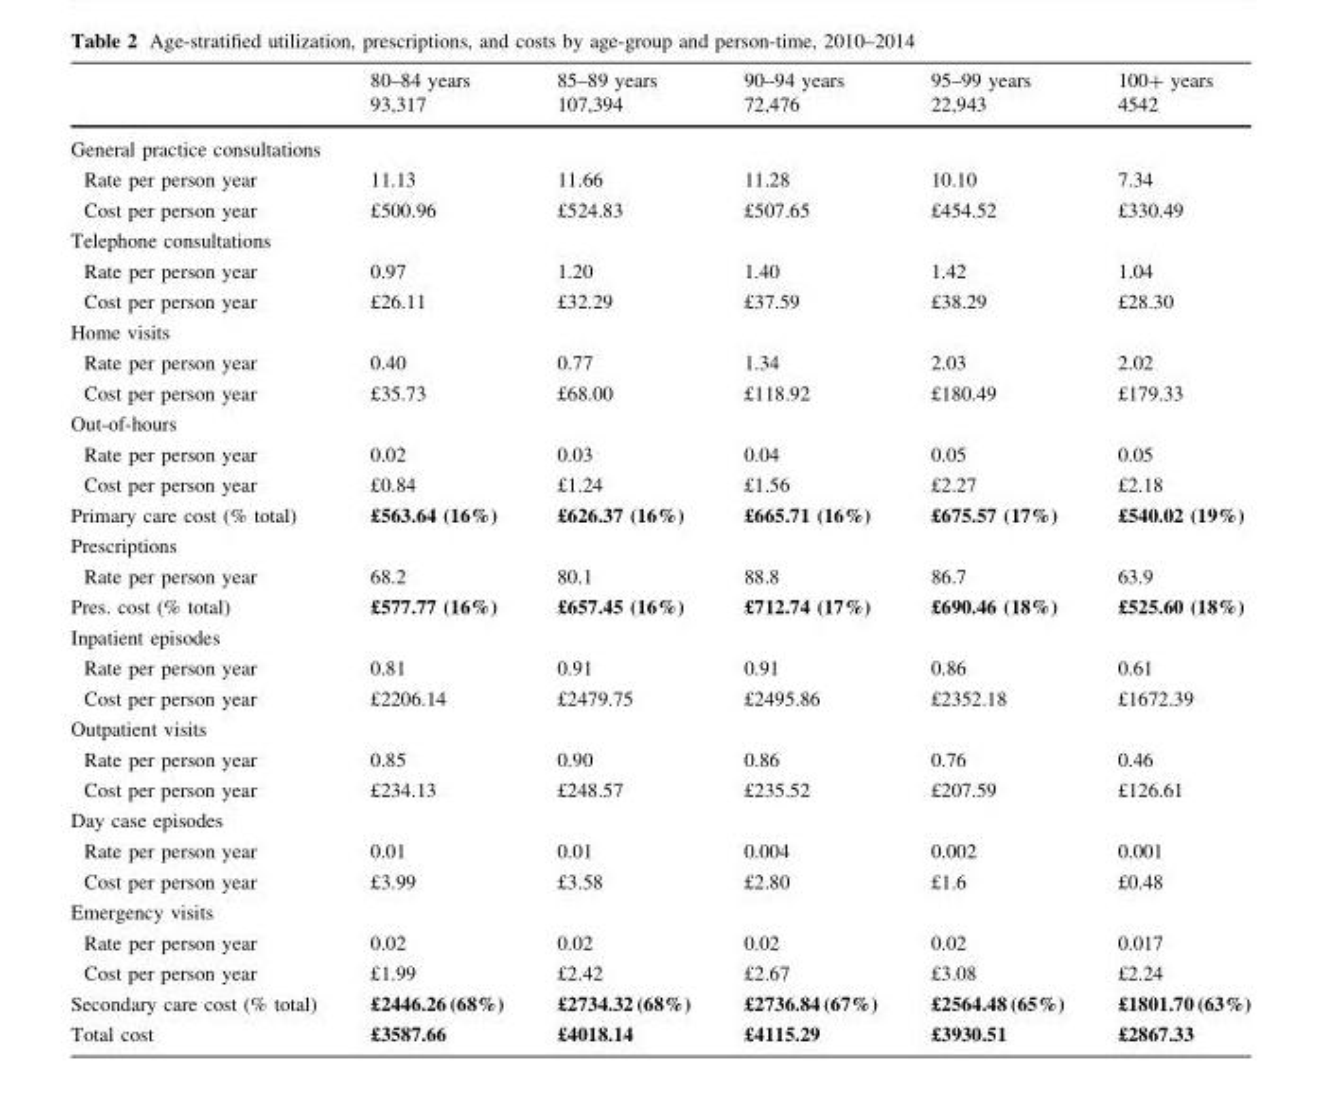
<table><thead><tr><td rowspan="2"></td><td rowspan="2">80–84 years 93,317</td><td rowspan="2">85–89 years 107,394</td><td rowspan="2">90–94 years 72,476</td><td rowspan="2">95–99 years 22,943</td><td rowspan="2">100+ years 4542</td></tr><tr></tr></thead><tbody><tr><td colspan="6">General practice consultations</td></tr><tr><td>Rate per person year</td><td>11.13</td><td>11.66</td><td>11.28</td><td>10.10</td><td>7.34</td></tr><tr><td>Cost per person year</td><td>£500.96</td><td>£524.83</td><td>£507.65</td><td>£454.52</td><td>£330.49</td></tr><tr><td colspan="6">Telephone consultations</td></tr><tr><td>Rate per person year</td><td>0.97</td><td>1.20</td><td>1.40</td><td>1.42</td><td>1.04</td></tr><tr><td>Cost per person year</td><td>£26.11</td><td>£32.29</td><td>£37.59</td><td>£38.29</td><td>£28.30</td></tr><tr><td colspan="6">Home visits</td></tr><tr><td>Rate per person year</td><td>0.40</td><td>0.77</td><td>1.34</td><td>2.03</td><td>2.02</td></tr><tr><td>Cost per person year</td><td>£35.73</td><td>£68.00</td><td>£118.92</td><td>£180.49</td><td>£179.33</td></tr><tr><td colspan="6">Out-of-hours</td></tr><tr><td>Rate per person year</td><td>0.02</td><td>0.03</td><td>0.04</td><td>0.05</td><td>0.05</td></tr><tr><td>Cost per person year</td><td>£0.84</td><td>£1.24</td><td>£1.56</td><td>£2.27</td><td>£2.18</td></tr><tr><td>Primary care cost (% total)</td><td>£563.64 (16%)</td><td>£626.37 (16%)</td><td>£665.71 (16%)</td><td>£675.57 (17%)</td><td>£540.02 (19%)</td></tr><tr><td colspan="6">Prescriptions</td></tr><tr><td>Rate per person year</td><td>68.2</td><td>80.1</td><td>88.8</td><td>86.7</td><td>63.9</td></tr><tr><td>Pres. cost (% total)</td><td>£577.77 (16%)</td><td>£657.45 (16%)</td><td>£712.74 (17%)</td><td>£690.46 (18%)</td><td>£525.60 (18%)</td></tr><tr><td colspan="6">Inpatient episodes</td></tr><tr><td>Rate per person year</td><td>0.81</td><td>0.91</td><td>0.91</td><td>0.86</td><td>0.61</td></tr><tr><td>Cost per person year</td><td>£2206.14</td><td>£2479.75</td><td>£2495.86</td><td>£2352.18</td><td>£1672.39</td></tr><tr><td colspan="6">Outpatient visits</td></tr><tr><td>Rate per person year</td><td>0.85</td><td>0.90</td><td>0.86</td><td>0.76</td><td>0.46</td></tr><tr><td>Cost per person year</td><td>£234.13</td><td>£248.57</td><td>£235.52</td><td>£207.59</td><td>£126.61</td></tr><tr><td colspan="6">Day case episodes</td></tr><tr><td>Rate per person year</td><td>0.01</td><td>0.01</td><td>0.004</td><td>0.002</td><td>0.001</td></tr><tr><td>Cost per person year</td><td>£3.99</td><td>£3.58</td><td>£2.80</td><td>£1.6</td><td>£0.48</td></tr><tr><td colspan="6">Emergency visits</td></tr><tr><td>Rate per person year</td><td>0.02</td><td>0.02</td><td>0.02</td><td>0.02</td><td>0.017</td></tr><tr><td>Cost per person year</td><td>£1.99</td><td>£2.42</td><td>£2.67</td><td>£3.08</td><td>£2.24</td></tr><tr><td>Secondary care cost (% total)</td><td>£2446.26 (68%)</td><td>£2734.32 (68%)</td><td>£2736.84 (67%)</td><td>£2564.48 (65%)</td><td>£1801.70 (63%)</td></tr><tr><td>Total cost</td><td>£3587.66</td><td>£4018.14</td><td>£4115.29</td><td>£3930.51</td><td>£2867.33</td></tr></tbody></table>